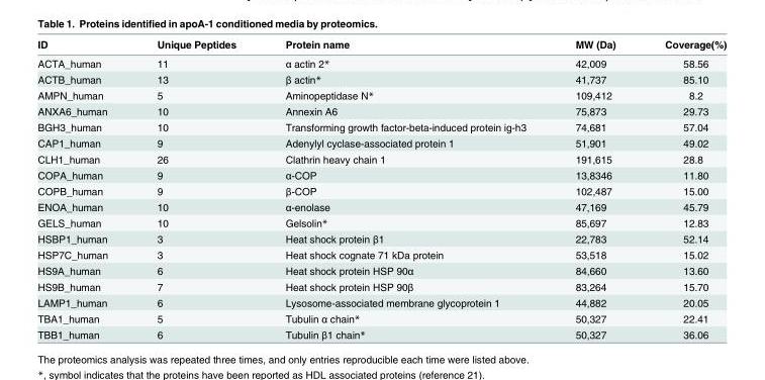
<table><thead><tr><td>ID</td><td>Unique Peptides</td><td>Protein name</td><td>MW (Da)</td><td>Coverage(%)</td></tr></thead><tbody><tr><td>ACTA_human</td><td>11</td><td>α actin 2*</td><td>42,009</td><td>58.56</td></tr><tr><td>ACTB_human</td><td>13</td><td>β actin*</td><td>41,737</td><td>85.10</td></tr><tr><td>AMPN_human</td><td>5</td><td>Aminopeptidase N*</td><td>109,412</td><td>8.2</td></tr><tr><td>ANXA6_human</td><td>10</td><td>Annexin A6</td><td>75,873</td><td>29.73</td></tr><tr><td>BGH3_human</td><td>10</td><td>Transforming growth factor-beta-induced protein ig-h3</td><td>74,681</td><td>57.04</td></tr><tr><td>CAP1_human</td><td>9</td><td>Adenylyl cyclase-associated protein 1</td><td>51,901</td><td>49.02</td></tr><tr><td>CLH1_human</td><td>26</td><td>Clathrin heavy chain 1</td><td>191,615</td><td>28.8</td></tr><tr><td>COPA_human</td><td>9</td><td>α-COP</td><td>13,8346</td><td>11.80</td></tr><tr><td>COPB_human</td><td>9</td><td>β-COP</td><td>102,487</td><td>15.00</td></tr><tr><td>ENOA_human</td><td>10</td><td>α-enolase</td><td>47,169</td><td>45.79</td></tr><tr><td>GELS_human</td><td>10</td><td>Gelsolin*</td><td>85,697</td><td>12.83</td></tr><tr><td>HSBP1_human</td><td>3</td><td>Heat shock protein β1</td><td>22,783</td><td>52.14</td></tr><tr><td>HSP7C_human</td><td>3</td><td>Heat shock cognate 71 kDa protein</td><td>53,518</td><td>15.02</td></tr><tr><td>HS9A_human</td><td>6</td><td>Heat shock protein HSP 90α</td><td>84,660</td><td>13.60</td></tr><tr><td>HS9B_human</td><td>7</td><td>Heat shock protein HSP 90β</td><td>83,264</td><td>15.70</td></tr><tr><td>LAMP1_human</td><td>6</td><td>Lysosome-associated membrane glycoprotein 1</td><td>44,882</td><td>20.05</td></tr><tr><td>TBA1_human</td><td>5</td><td>Tubulin α chain*</td><td>50,327</td><td>22.41</td></tr><tr><td>TBB1_human</td><td>6</td><td>Tubulin β1 chain*</td><td>50,327</td><td>36.06</td></tr></tbody></table>